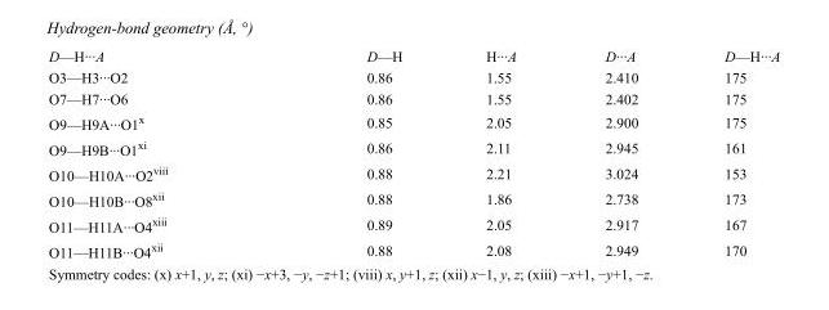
<table><tbody><tr><td>D—H···A</td><td>D—H</td><td>H···A</td><td>D···A</td><td>D—H···A</td></tr><tr><td>O3—H3···O2</td><td>0.86</td><td>1.55</td><td>2.410</td><td>175</td></tr><tr><td>O7—H7···O6</td><td>0.86</td><td>1.55</td><td>2.402</td><td>175</td></tr><tr><td>O9—H9A···O1<sup>x</sup></td><td>0.85</td><td>2.05</td><td>2.900</td><td>175</td></tr><tr><td>O9—H9B···O1<sup>xi</sup></td><td>0.86</td><td>2.11</td><td>2.945</td><td>161</td></tr><tr><td>O10—H10A···O2<sup>viii</sup></td><td>0.88</td><td>2.21</td><td>3.024</td><td>153</td></tr><tr><td>O10—H10B···O8<sup>xii</sup></td><td>0.88</td><td>1.86</td><td>2.738</td><td>173</td></tr><tr><td>O11—H11A···O4<sup>xiii</sup></td><td>0.89</td><td>2.05</td><td>2.917</td><td>167</td></tr><tr><td>O11—H11B···O4<sup>xii</sup></td><td>0.88</td><td>2.08</td><td>2.949</td><td>170</td></tr></tbody></table>